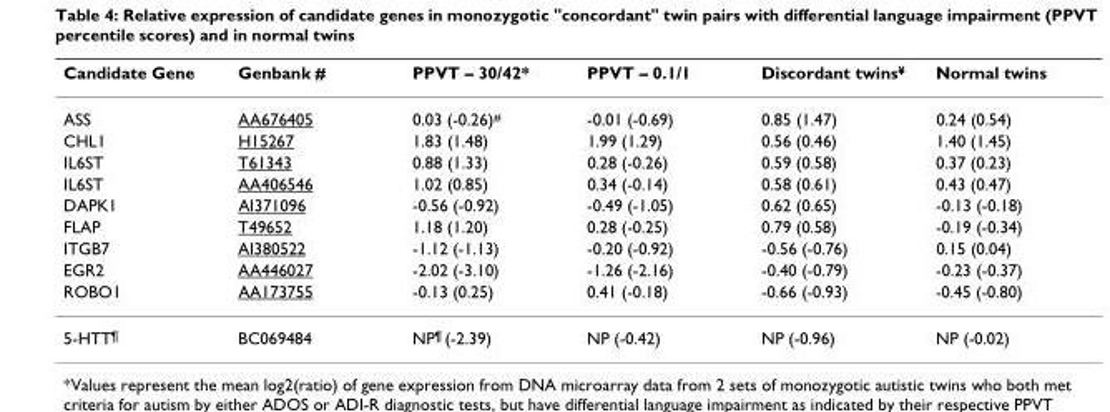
<table><thead><tr><td>Candidate Gene</td><td>Genbank #</td><td>PPVT – 30/42*</td><td>PPVT – 0.1/1</td><td>Discordant twins<sup>¥</sup></td><td>Normal twins</td></tr></thead><tbody><tr><td>ASS</td><td>AA676405</td><td>0.03 (-0.26)<sup>#</sup></td><td>-0.01 (-0.69)</td><td>0.85 (1.47)</td><td>0.24 (0.54)</td></tr><tr><td>CHL1</td><td>H15267</td><td>1.83 (1.48)</td><td>1.99 (1.29)</td><td>0.56 (0.46)</td><td>1.40 (1.45)</td></tr><tr><td>IL6ST</td><td>T61343</td><td>0.88 (1.33)</td><td>0.28 (-0.26)</td><td>0.59 (0.58)</td><td>0.37 (0.23)</td></tr><tr><td>IL6ST</td><td>AA406546</td><td>1.02 (0.85)</td><td>0.34 (-0.14)</td><td>0.58 (0.61)</td><td>0.43 (0.47)</td></tr><tr><td>DAPK1</td><td>AI371096</td><td>-0.56 (-0.92)</td><td>-0.49 (-1.05)</td><td>0.62 (0.65)</td><td>-0.13 (-0.18)</td></tr><tr><td>FLAP</td><td>T49652</td><td>1.18 (1.20)</td><td>0.28 (-0.25)</td><td>0.79 (0.58)</td><td>-0.19 (-0.34)</td></tr><tr><td>ITGB7</td><td>AI380522</td><td>-1.12 (-1.13)</td><td>-0.20 (-0.92)</td><td>-0.56 (-0.76)</td><td>0.15 (0.04)</td></tr><tr><td>EGR2</td><td>AA446027</td><td>-2.02 (-3.10)</td><td>-1.26 (-2.16)</td><td>-0.40 (-0.79)</td><td>-0.23 (-0.37)</td></tr><tr><td>ROBO1</td><td>AA173755</td><td>-0.13 (0.25)</td><td>0.41 (-0.18)</td><td>-0.66 (-0.93)</td><td>-0.45 (-0.80)</td></tr><tr><td>5-HTT<sup>¶</sup></td><td>BC069484</td><td>NP<sup>¶</sup> (-2.39)</td><td>NP (-0.42)</td><td>NP (-0.96)</td><td>NP (-0.02)</td></tr></tbody></table>